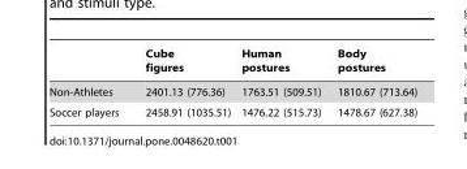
<table><thead><tr><td></td><td>Cube figures</td><td>Human postures</td><td>Body postures</td></tr></thead><tbody><tr><td>Non-Athletes</td><td>2401.13 (776.36)</td><td>1763.51 (509.51)</td><td>1810.67 (713.64)</td></tr><tr><td>Soccer players</td><td>2458.91 (1035.51)</td><td>1476.22 (515.73)</td><td>1478.67 (627.38)</td></tr></tbody></table>